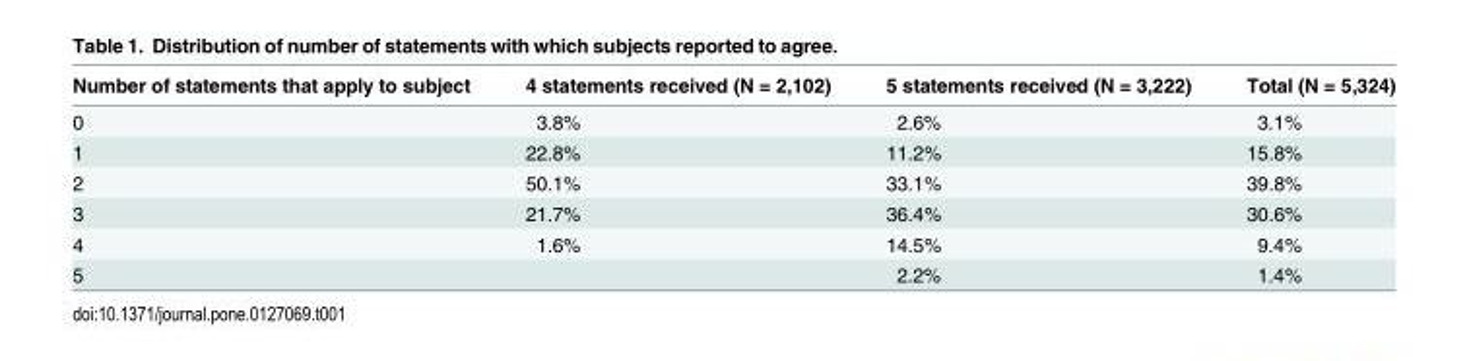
<table><thead><tr><td>Number of statements that apply to subject</td><td>4 statements received (N = 2,102)</td><td>5 statements received (N = 3,222)</td><td>Total (N = 5,324)</td></tr></thead><tbody><tr><td>0</td><td>3.8%</td><td>2.6%</td><td>3.1%</td></tr><tr><td>1</td><td>22.8%</td><td>11.2%</td><td>15.8%</td></tr><tr><td>2</td><td>50.1%</td><td>33.1%</td><td>39.8%</td></tr><tr><td>3</td><td>21.7%</td><td>36.4%</td><td>30.6%</td></tr><tr><td>4</td><td>1.6%</td><td>14.5%</td><td>9.4%</td></tr><tr><td>5</td><td></td><td>2.2%</td><td>1.4%</td></tr></tbody></table>